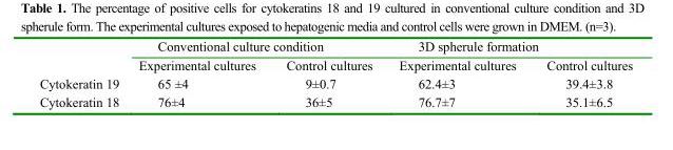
<table><thead><tr><td rowspan="2"></td><td colspan="2">Conventional culture condition</td><td colspan="2">3D spherule formation</td></tr><tr><td>Experimental cultures</td><td>Control cultures</td><td>Experimental cultures</td><td>Control cultures</td></tr></thead><tbody><tr><td>Cytokeratin 19</td><td>65 ±4</td><td>9±0.7</td><td>62.4±3</td><td>39.4±3.8</td></tr><tr><td>Cytokeratin 18</td><td>76±4</td><td>36±5</td><td>76.7±7</td><td>35.1±6.5</td></tr></tbody></table>